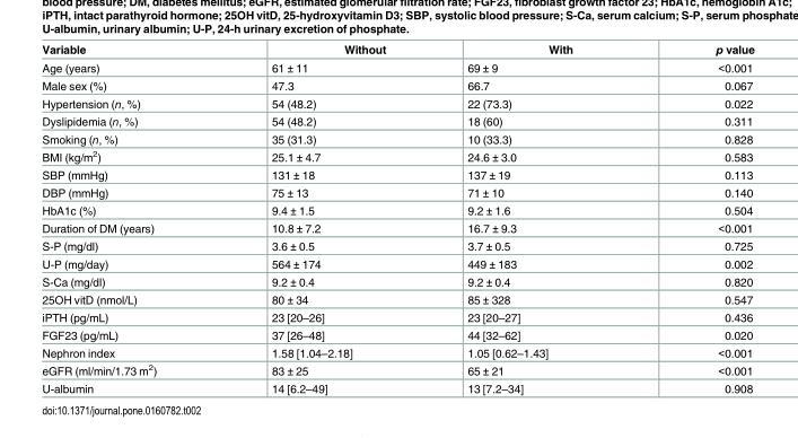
<table><thead><tr><td>Variable</td><td>Without</td><td>With</td><td>p value</td></tr></thead><tbody><tr><td>Age (years)</td><td>61 ± 11</td><td>69 ± 9</td><td>&lt;0.001</td></tr><tr><td>Male sex (%)</td><td>47.3</td><td>66.7</td><td>0.067</td></tr><tr><td>Hypertension (n, %)</td><td>54 (48.2)</td><td>22 (73.3)</td><td>0.022</td></tr><tr><td>Dyslipidemia (n, %)</td><td>54 (48.2)</td><td>18 (60)</td><td>0.311</td></tr><tr><td>Smoking (n, %)</td><td>35 (31.3)</td><td>10 (33.3)</td><td>0.828</td></tr><tr><td>BMI (kg/m<sup>2</sup>)</td><td>25.1 ± 4.7</td><td>24.6 ± 3.0</td><td>0.583</td></tr><tr><td>SBP (mmHg)</td><td>131 ± 18</td><td>137 ± 19</td><td>0.113</td></tr><tr><td>DBP (mmHg)</td><td>75 ± 13</td><td>71 ± 10</td><td>0.140</td></tr><tr><td>HbA1c (%)</td><td>9.4 ± 1.5</td><td>9.2 ± 1.6</td><td>0.504</td></tr><tr><td>Duration of DM (years)</td><td>10.8 ± 7.2</td><td>16.7 ± 9.3</td><td>&lt;0.001</td></tr><tr><td>S-P (mg/dl)</td><td>3.6 ± 0.5</td><td>3.7 ± 0.5</td><td>0.725</td></tr><tr><td>U-P (mg/day)</td><td>564 ± 174</td><td>449 ± 183</td><td>0.002</td></tr><tr><td>S-Ca (mg/dl)</td><td>9.2 ± 0.4</td><td>9.2 ± 0.4</td><td>0.820</td></tr><tr><td>25OH vitD (nmol/L)</td><td>80 ± 34</td><td>85 ± 328</td><td>0.547</td></tr><tr><td>iPTH (pg/mL)</td><td>23 [20–26]</td><td>23 [20–27]</td><td>0.436</td></tr><tr><td>FGF23 (pg/mL)</td><td>37 [26–48]</td><td>44 [32–62]</td><td>0.020</td></tr><tr><td>Nephron index</td><td>1.58 [1.04–2.18]</td><td>1.05 [0.62–1.43]</td><td>&lt;0.001</td></tr><tr><td>eGFR (ml/min/1.73 m<sup>2</sup>)</td><td>83 ± 25</td><td>65 ± 21</td><td>&lt;0.001</td></tr><tr><td>U-albumin</td><td>14 [6.2–49]</td><td>13 [7.2–34]</td><td>0.908</td></tr></tbody></table>